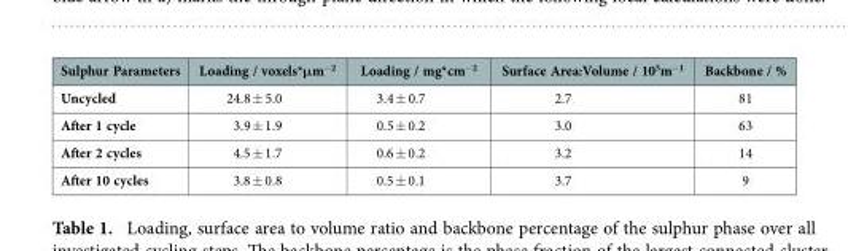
<table><thead><tr><td>Sulphur Parameters</td><td>Loading / voxels*μm<sup>−2</sup></td><td>Loading / mg*cm<sup>−2</sup></td><td>Surface Area:Volume / 10<sup>5</sup>m<sup>−1</sup></td><td>Backbone / %</td></tr></thead><tbody><tr><td>Uncycled</td><td>24.8 ± 5.0</td><td>3.4 ± 0.7</td><td>2.7</td><td>81</td></tr><tr><td>After 1 cycle</td><td>3.9 ± 1.9</td><td>0.5 ± 0.2</td><td>3.0</td><td>63</td></tr><tr><td>After 2 cycles</td><td>4.5 ± 1.7</td><td>0.6 ± 0.2</td><td>3.2</td><td>14</td></tr><tr><td>After 10 cycles</td><td>3.8 ± 0.8</td><td>0.5 ± 0.1</td><td>3.7</td><td>9</td></tr></tbody></table>